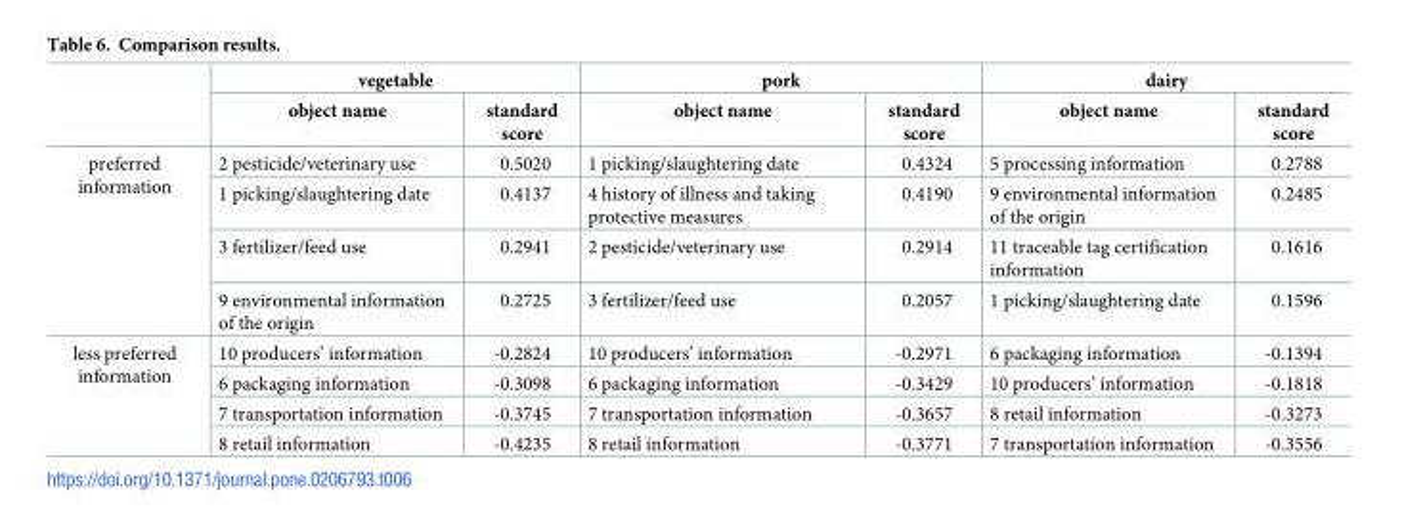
<table><thead><tr><td rowspan="2"></td><td colspan="2">vegetable</td><td colspan="2">pork</td><td colspan="2">dairy</td></tr><tr><td>object name</td><td>standard score</td><td>object name</td><td>standard score</td><td>object name</td><td>standard score</td></tr></thead><tbody><tr><td rowspan="4">preferred information</td><td>2 pesticide/veterinary use</td><td>0.5020</td><td>1 picking/slaughtering date</td><td>0.4324</td><td>5 processing information</td><td>0.2788</td></tr><tr><td>1 picking/slaughtering date</td><td>0.4137</td><td>4 history of illness and taking protective measures</td><td>0.4190</td><td>9 environmental information of the origin</td><td>0.2485</td></tr><tr><td>3 fertilizer/feed use</td><td>0.2941</td><td>2 pesticide/veterinary use</td><td>0.2914</td><td>11 traceable tag certification information</td><td>0.1616</td></tr><tr><td>9 environmental information of the origin</td><td>0.2725</td><td>3 fertilizer/feed use</td><td>0.2057</td><td>1 picking/slaughtering date</td><td>0.1596</td></tr><tr><td rowspan="4">less preferred information</td><td>10 producers’ information</td><td>-0.2824</td><td>10 producers’ information</td><td>-0.2971</td><td>6 packaging information</td><td>-0.1394</td></tr><tr><td>6 packaging information</td><td>-0.3098</td><td>6 packaging information</td><td>-0.3429</td><td>10 producers’ information</td><td>-0.1818</td></tr><tr><td>7 transportation information</td><td>-0.3745</td><td>7 transportation information</td><td>-0.3657</td><td>8 retail information</td><td>-0.3273</td></tr><tr><td>8 retail information</td><td>-0.4235</td><td>8 retail information</td><td>-0.3771</td><td>7 transportation information</td><td>-0.3556</td></tr></tbody></table>